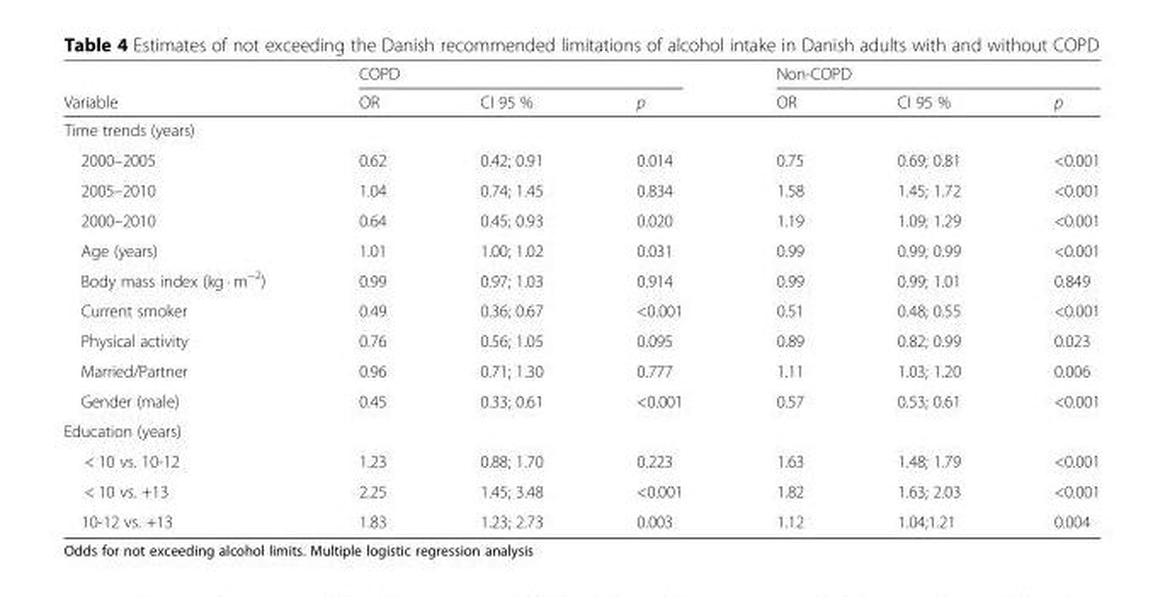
<table><thead><tr><td rowspan="2">Variable</td><td colspan="3">COPD</td><td colspan="3">Non-COPD</td></tr><tr><td>OR</td><td>CI 95 %</td><td>p</td><td>OR</td><td>CI 95 %</td><td>p</td></tr></thead><tbody><tr><td colspan="7">Time trends (years)</td></tr><tr><td>2000–2005</td><td>0.62</td><td>0.42; 0.91</td><td>0.014</td><td>0.75</td><td>0.69; 0.81</td><td>&lt;0.001</td></tr><tr><td>2005–2010</td><td>1.04</td><td>0.74; 1.45</td><td>0.834</td><td>1.58</td><td>1.45; 1.72</td><td>&lt;0.001</td></tr><tr><td>2000–2010</td><td>0.64</td><td>0.45; 0.93</td><td>0.020</td><td>1.19</td><td>1.09; 1.29</td><td>&lt;0.001</td></tr><tr><td>Age (years)</td><td>1.01</td><td>1.00; 1.02</td><td>0.031</td><td>0.99</td><td>0.99; 0.99</td><td>&lt;0.001</td></tr><tr><td>Body mass index (kg · m<sup>−2</sup>)</td><td>0.99</td><td>0.97; 1.03</td><td>0.914</td><td>0.99</td><td>0.99; 1.01</td><td>0.849</td></tr><tr><td>Current smoker</td><td>0.49</td><td>0.36; 0.67</td><td>&lt;0.001</td><td>0.51</td><td>0.48; 0.55</td><td>&lt;0.001</td></tr><tr><td>Physical activity</td><td>0.76</td><td>0.56; 1.05</td><td>0.095</td><td>0.89</td><td>0.82; 0.99</td><td>0.023</td></tr><tr><td>Married/Partner</td><td>0.96</td><td>0.71; 1.30</td><td>0.777</td><td>1.11</td><td>1.03; 1.20</td><td>0.006</td></tr><tr><td>Gender (male)</td><td>0.45</td><td>0.33; 0.61</td><td>&lt;0.001</td><td>0.57</td><td>0.53; 0.61</td><td>&lt;0.001</td></tr><tr><td colspan="7">Education (years)</td></tr><tr><td>&lt; 10 vs. 10-12</td><td>1.23</td><td>0.88; 1.70</td><td>0.223</td><td>1.63</td><td>1.48; 1.79</td><td>&lt;0.001</td></tr><tr><td>&lt; 10 vs. +13</td><td>2.25</td><td>1.45; 3.48</td><td>&lt;0.001</td><td>1.82</td><td>1.63; 2.03</td><td>&lt;0.001</td></tr><tr><td>10-12 vs. +13</td><td>1.83</td><td>1.23; 2.73</td><td>0.003</td><td>1.12</td><td>1.04;1.21</td><td>0.004</td></tr></tbody></table>